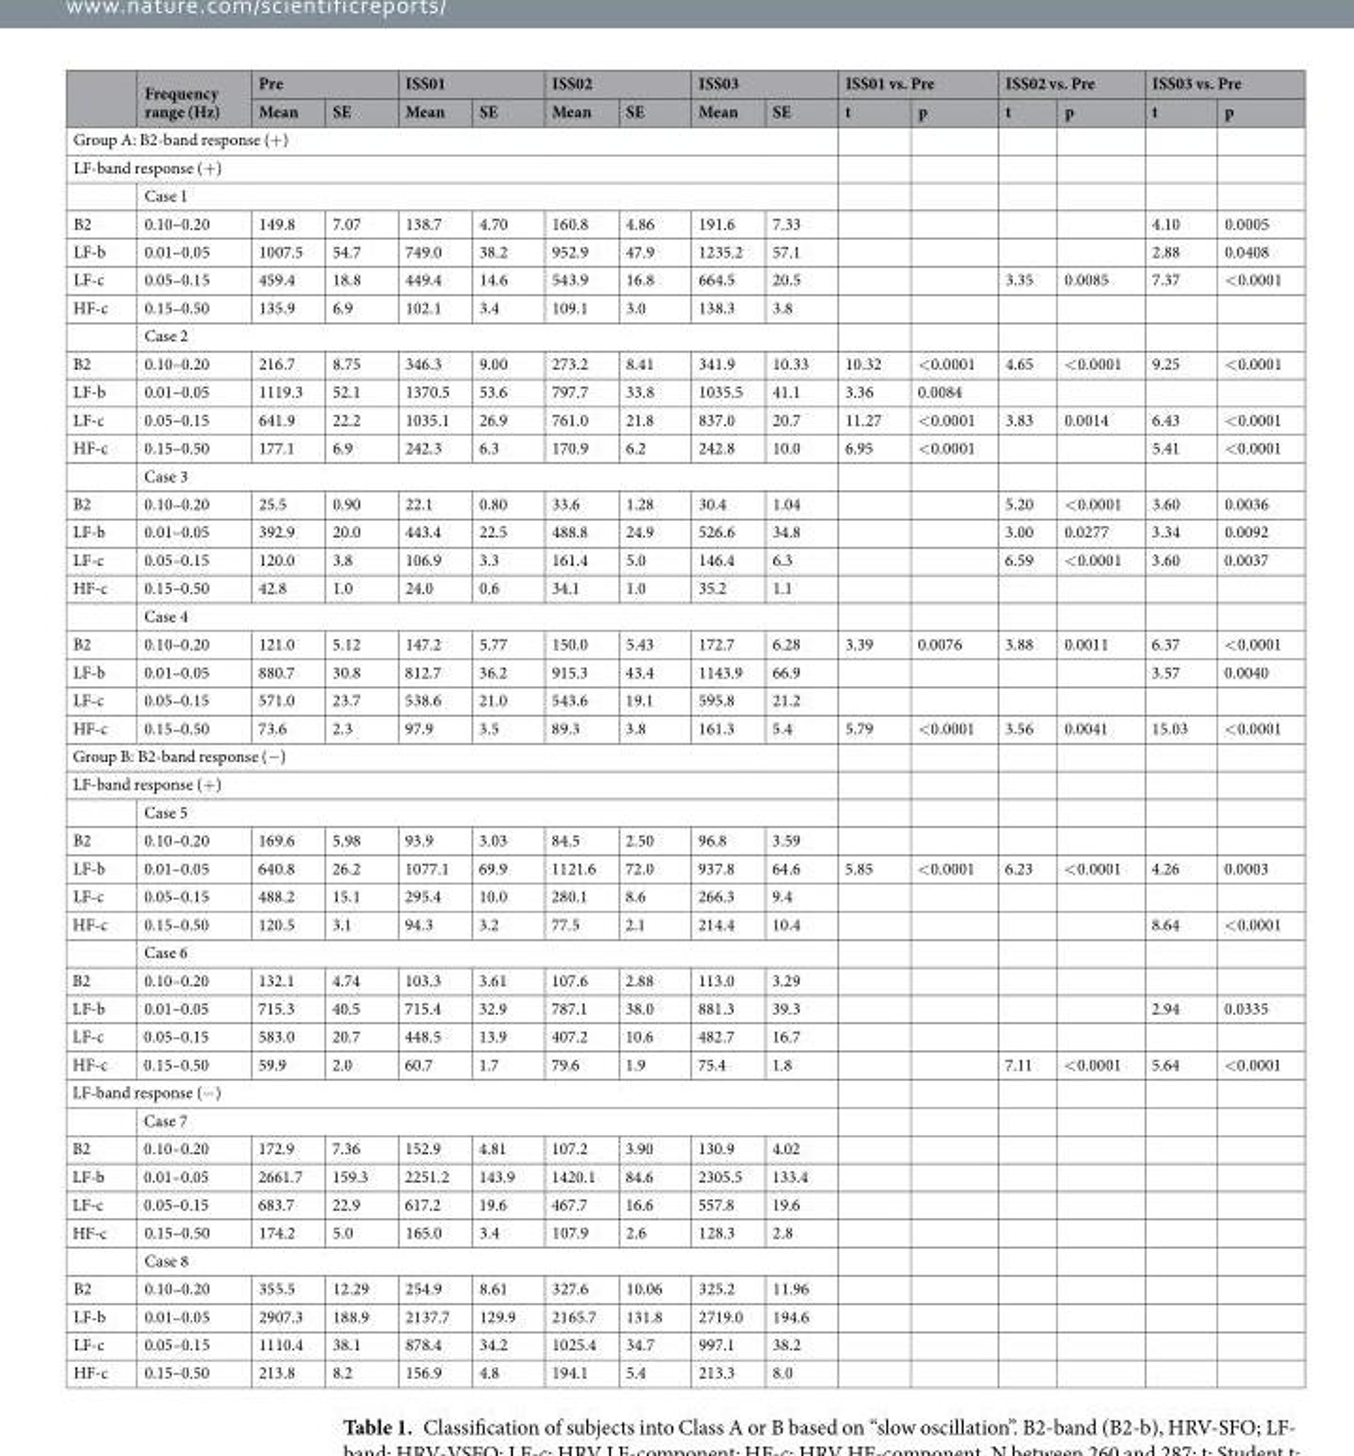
<table><thead><tr><td rowspan="2"></td><td rowspan="2">Frequency range (Hz)</td><td colspan="2">Pre</td><td colspan="2">ISS01</td><td colspan="2">ISS02</td><td colspan="2">ISS03</td><td colspan="2">ISS01 vs. Pre</td><td colspan="2">ISS02 vs. Pre</td><td colspan="2">ISS03 vs. Pre</td></tr><tr><td>Mean</td><td>SE</td><td>Mean</td><td>SE</td><td>Mean</td><td>SE</td><td>Mean</td><td>SE</td><td>t</td><td>p</td><td>t</td><td>p</td><td>t</td><td>p</td></tr></thead><tbody><tr><td colspan="16">Group A: B2-band response (+)</td></tr><tr><td colspan="16">LF-band response (+)</td></tr><tr><td></td><td colspan="9">Case 1</td><td></td><td></td><td></td><td></td><td></td><td></td></tr><tr><td>B2</td><td>0.10–0.20</td><td>149.8</td><td>7.07</td><td>138.7</td><td>4.70</td><td>160.8</td><td>4.86</td><td>191.6</td><td>7.33</td><td></td><td></td><td></td><td></td><td>4.10</td><td>0.0005</td></tr><tr><td>LF-b</td><td>0.01–0.05</td><td>1007.5</td><td>54.7</td><td>749.0</td><td>38.2</td><td>952.9</td><td>47.9</td><td>1235.2</td><td>57.1</td><td></td><td></td><td></td><td></td><td>2.88</td><td>0.0408</td></tr><tr><td>LF-c</td><td>0.05–0.15</td><td>459.4</td><td>18.8</td><td>449.4</td><td>14.6</td><td>543.9</td><td>16.8</td><td>664.5</td><td>20.5</td><td></td><td></td><td>3.35</td><td>0.0085</td><td>7.37</td><td>&lt;0.0001</td></tr><tr><td rowspan="2">HF-c</td><td>0.15–0.50</td><td>135.9</td><td>6.9</td><td>102.1</td><td>3.4</td><td>109.1</td><td>3.0</td><td>138.3</td><td>3.8</td><td></td><td></td><td></td><td></td><td></td><td></td></tr><tr><td colspan="9">Case 2</td><td></td><td></td><td></td><td></td><td></td><td></td></tr><tr><td>B2</td><td>0.10–0.20</td><td>216.7</td><td>8.75</td><td>346.3</td><td>9.00</td><td>273.2</td><td>8.41</td><td>341.9</td><td>10.33</td><td>10.32</td><td>&lt;0.0001</td><td>4.65</td><td>&lt;0.0001</td><td>9.25</td><td>&lt;0.0001</td></tr><tr><td>LF-b</td><td>0.01–0.05</td><td>1119.3</td><td>52.1</td><td>1370.5</td><td>53.6</td><td>797.7</td><td>33.8</td><td>1035.5</td><td>41.1</td><td>3.36</td><td>0.0084</td><td></td><td></td><td></td><td></td></tr><tr><td>LF-c</td><td>0.05–0.15</td><td>641.9</td><td>22.2</td><td>1035.1</td><td>26.9</td><td>761.0</td><td>21.8</td><td>837.0</td><td>20.7</td><td>11.27</td><td>&lt;0.0001</td><td>3.83</td><td>0.0014</td><td>6.43</td><td>&lt;0.0001</td></tr><tr><td rowspan="2">HF-c</td><td>0.15–0.50</td><td>177.1</td><td>6.9</td><td>242.3</td><td>6.3</td><td>170.9</td><td>6.2</td><td>242.8</td><td>10.0</td><td>6.95</td><td>&lt;0.0001</td><td></td><td></td><td>5.41</td><td>&lt;0.0001</td></tr><tr><td colspan="9">Case 3</td><td></td><td></td><td></td><td></td><td></td><td></td></tr><tr><td>B2</td><td>0.10–0.20</td><td>25.5</td><td>0.90</td><td>22.1</td><td>0.80</td><td>33.6</td><td>1.28</td><td>30.4</td><td>1.04</td><td></td><td></td><td>5.20</td><td>&lt;0.0001</td><td>3.60</td><td>0.0036</td></tr><tr><td>LF-b</td><td>0.01–0.05</td><td>392.9</td><td>20.0</td><td>443.4</td><td>22.5</td><td>488.8</td><td>24.9</td><td>526.6</td><td>34.8</td><td></td><td></td><td>3.00</td><td>0.0277</td><td>3.34</td><td>0.0092</td></tr><tr><td>LF-c</td><td>0.05–0.15</td><td>120.0</td><td>3.8</td><td>106.9</td><td>3.3</td><td>161.4</td><td>5.0</td><td>146.4</td><td>6.3</td><td></td><td></td><td>6.59</td><td>&lt;0.0001</td><td>3.60</td><td>0.0037</td></tr><tr><td rowspan="2">HF-c</td><td>0.15–0.50</td><td>42.8</td><td>1.0</td><td>24.0</td><td>0.6</td><td>34.1</td><td>1.0</td><td>35.2</td><td>1.1</td><td></td><td></td><td></td><td></td><td></td><td></td></tr><tr><td colspan="9">Case 4</td><td></td><td></td><td></td><td></td><td></td><td></td></tr><tr><td>B2</td><td>0.10–0.20</td><td>121.0</td><td>5.12</td><td>147.2</td><td>5.77</td><td>150.0</td><td>5.43</td><td>172.7</td><td>6.28</td><td>3.39</td><td>0.0076</td><td>3.88</td><td>0.0011</td><td>6.37</td><td>&lt;0.0001</td></tr><tr><td>LF-b</td><td>0.01–0.05</td><td>880.7</td><td>30.8</td><td>812.7</td><td>36.2</td><td>915.3</td><td>43.4</td><td>1143.9</td><td>66.9</td><td></td><td></td><td></td><td></td><td>3.57</td><td>0.0040</td></tr><tr><td>LF-c</td><td>0.05–0.15</td><td>571.0</td><td>23.7</td><td>538.6</td><td>21.0</td><td>543.6</td><td>19.1</td><td>595.8</td><td>21.2</td><td></td><td></td><td></td><td></td><td></td><td></td></tr><tr><td>HF-c</td><td>0.15–0.50</td><td>73.6</td><td>2.3</td><td>97.9</td><td>3.5</td><td>89.3</td><td>3.8</td><td>161.3</td><td>5.4</td><td>5.79</td><td>&lt;0.0001</td><td>3.56</td><td>0.0041</td><td>15.03</td><td>&lt;0.0001</td></tr><tr><td colspan="16">Group B: B2-band response (−)</td></tr><tr><td colspan="16">LF-band response (+)</td></tr><tr><td></td><td colspan="9">Case 5</td><td></td><td></td><td></td><td></td><td></td><td></td></tr><tr><td>B2</td><td>0.10–0.20</td><td>169.6</td><td>5.98</td><td>93.9</td><td>3.03</td><td>84.5</td><td>2.50</td><td>96.8</td><td>3.59</td><td></td><td></td><td></td><td></td><td></td><td></td></tr><tr><td>LF-b</td><td>0.01–0.05</td><td>640.8</td><td>26.2</td><td>1077.1</td><td>69.9</td><td>1121.6</td><td>72.0</td><td>937.8</td><td>64.6</td><td>5.85</td><td>&lt;0.0001</td><td>6.23</td><td>&lt;0.0001</td><td>4.26</td><td>0.0003</td></tr><tr><td>LF-c</td><td>0.05–0.15</td><td>488.2</td><td>15.1</td><td>295.4</td><td>10.0</td><td>280.1</td><td>8.6</td><td>266.3</td><td>9.4</td><td></td><td></td><td></td><td></td><td></td><td></td></tr><tr><td rowspan="2">HF-c</td><td>0.15–0.50</td><td>120.5</td><td>3.1</td><td>94.3</td><td>3.2</td><td>77.5</td><td>2.1</td><td>214.4</td><td>10.4</td><td></td><td></td><td></td><td></td><td>8.64</td><td>&lt;0.0001</td></tr><tr><td colspan="9">Case 6</td><td></td><td></td><td></td><td></td><td></td><td></td></tr><tr><td>B2</td><td>0.10–0.20</td><td>132.1</td><td>4.74</td><td>103.3</td><td>3.61</td><td>107.6</td><td>2.88</td><td>113.0</td><td>3.29</td><td></td><td></td><td></td><td></td><td></td><td></td></tr><tr><td>LF-b</td><td>0.01–0.05</td><td>715.3</td><td>40.5</td><td>715.4</td><td>32.9</td><td>787.1</td><td>38.0</td><td>881.3</td><td>39.3</td><td></td><td></td><td></td><td></td><td>2.94</td><td>0.0335</td></tr><tr><td>LF-c</td><td>0.05–0.15</td><td>583.0</td><td>20.7</td><td>448.5</td><td>13.9</td><td>407.2</td><td>10.6</td><td>482.7</td><td>16.7</td><td></td><td></td><td></td><td></td><td></td><td></td></tr><tr><td>HF-c</td><td>0.15–0.50</td><td>59.9</td><td>2.0</td><td>60.7</td><td>1.7</td><td>79.6</td><td>1.9</td><td>75.4</td><td>1.8</td><td></td><td></td><td>7.11</td><td>&lt;0.0001</td><td>5.64</td><td>&lt;0.0001</td></tr><tr><td colspan="16">LF-band response (−)</td></tr><tr><td></td><td colspan="9">Case 7</td><td></td><td></td><td></td><td></td><td></td><td></td></tr><tr><td>B2</td><td>0.10–0.20</td><td>172.9</td><td>7.36</td><td>152.9</td><td>4.81</td><td>107.2</td><td>3.90</td><td>130.9</td><td>4.02</td><td></td><td></td><td></td><td></td><td></td><td></td></tr><tr><td>LF-b</td><td>0.01–0.05</td><td>2661.7</td><td>159.3</td><td>2251.2</td><td>143.9</td><td>1420.1</td><td>84.6</td><td>2305.5</td><td>133.4</td><td></td><td></td><td></td><td></td><td></td><td></td></tr><tr><td>LF-c</td><td>0.05–0.15</td><td>683.7</td><td>22.9</td><td>617.2</td><td>19.6</td><td>467.7</td><td>16.6</td><td>557.8</td><td>19.6</td><td></td><td></td><td></td><td></td><td></td><td></td></tr><tr><td rowspan="2">HF-c</td><td>0.15–0.50</td><td>174.2</td><td>5.0</td><td>165.0</td><td>3.4</td><td>107.9</td><td>2.6</td><td>128.3</td><td>2.8</td><td></td><td></td><td></td><td></td><td></td><td></td></tr><tr><td colspan="9">Case 8</td><td></td><td></td><td></td><td></td><td></td><td></td></tr><tr><td>B2</td><td>0.10–0.20</td><td>355.5</td><td>12.29</td><td>254.9</td><td>8.61</td><td>327.6</td><td>10.06</td><td>325.2</td><td>11.96</td><td></td><td></td><td></td><td></td><td></td><td></td></tr><tr><td>LF-b</td><td>0.01–0.05</td><td>2907.3</td><td>188.9</td><td>2137.7</td><td>129.9</td><td>2165.7</td><td>131.8</td><td>2719.0</td><td>194.6</td><td></td><td></td><td></td><td></td><td></td><td></td></tr><tr><td>LF-c</td><td>0.05–0.15</td><td>1110.4</td><td>38.1</td><td>878.4</td><td>34.2</td><td>1025.4</td><td>34.7</td><td>997.1</td><td>38.2</td><td></td><td></td><td></td><td></td><td></td><td></td></tr><tr><td>HF-c</td><td>0.15–0.50</td><td>213.8</td><td>8.2</td><td>156.9</td><td>4.8</td><td>194.1</td><td>5.4</td><td>213.3</td><td>8.0</td><td></td><td></td><td></td><td></td><td></td><td></td></tr></tbody></table>